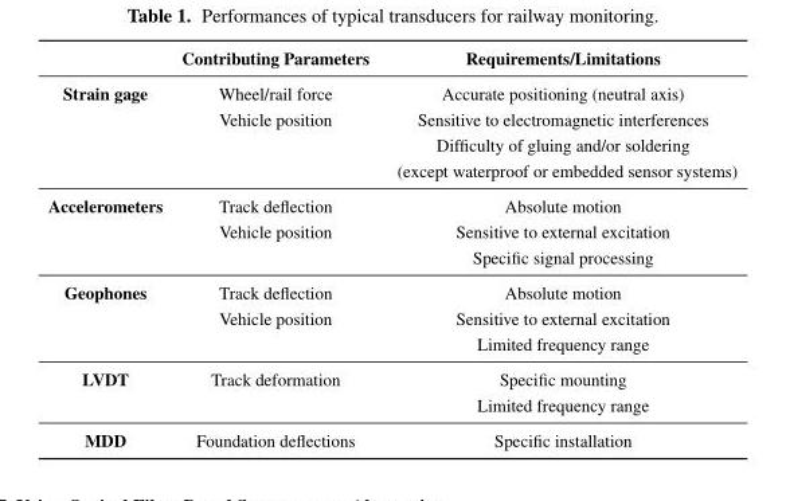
<table><thead><tr><td></td><td>Contributing Parameters</td><td>Requirements/Limitations</td></tr></thead><tbody><tr><td rowspan="4">Strain gage</td><td>Wheel/rail force</td><td>Accurate positioning (neutral axis)</td></tr><tr><td>Vehicle position</td><td>Sensitive to electromagnetic interferences</td></tr><tr><td></td><td>Difficulty of gluing and/or soldering</td></tr><tr><td></td><td>(except waterproof or embedded sensor systems)</td></tr><tr><td rowspan="3">Accelerometers</td><td>Track deflection</td><td>Absolute motion</td></tr><tr><td>Vehicle position</td><td>Sensitive to external excitation</td></tr><tr><td></td><td>Specific signal processing</td></tr><tr><td rowspan="3">Geophones</td><td>Track deflection</td><td>Absolute motion</td></tr><tr><td>Vehicle position</td><td>Sensitive to external excitation</td></tr><tr><td></td><td>Limited frequency range</td></tr><tr><td rowspan="2">LVDT</td><td>Track deformation</td><td>Specific mounting</td></tr><tr><td></td><td>Limited frequency range</td></tr><tr><td>MDD</td><td>Foundation deflections</td><td>Specific installation</td></tr></tbody></table>